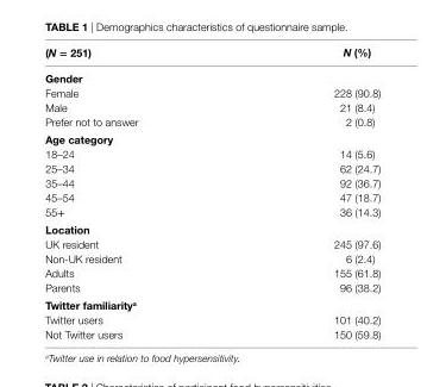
<table><thead><tr><td>(N = 251)</td><td>N (%)</td></tr></thead><tbody><tr><td colspan="2">gender</td></tr><tr><td>Female</td><td>228 (90.8)</td></tr><tr><td>Male</td><td>21 (8.4)</td></tr><tr><td>Prefer not to answer</td><td>2 (0.8)</td></tr><tr><td colspan="2">age category</td></tr><tr><td>18–24</td><td>14 (5.6)</td></tr><tr><td>25–34</td><td>62 (24.7)</td></tr><tr><td>35–44</td><td>92 (36.7)</td></tr><tr><td>45–54</td><td>47 (18.7)</td></tr><tr><td>55+</td><td>36 (14.3)</td></tr><tr><td colspan="2">location</td></tr><tr><td>UK resident</td><td>245 (97.6)</td></tr><tr><td>Non-UK resident</td><td>6 (2.4)</td></tr><tr><td>Adults</td><td>155 (61.8)</td></tr><tr><td>Parents</td><td>96 (38.2)</td></tr><tr><td colspan="2">Twitter familiaritya</td></tr><tr><td>Twitter users</td><td>101 (40.2)</td></tr><tr><td>Not Twitter users</td><td>150 (59.8)</td></tr></tbody></table>